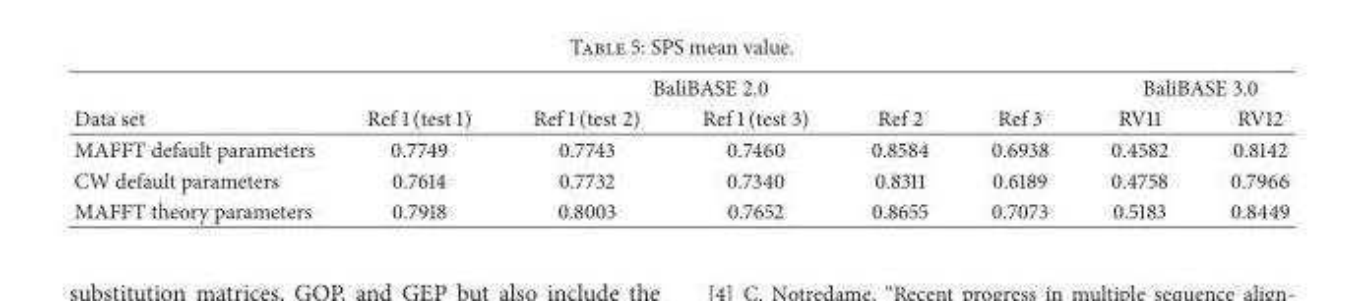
<table><thead><tr><td rowspan="2">Data set</td><td colspan="5">BaliBASE 2.0</td><td colspan="2">BaliBASE 3.0</td></tr><tr><td>Ref 1 (test 1)</td><td>Ref 1 (test 2)</td><td>Ref 1 (test 3)</td><td>Ref 2</td><td>Ref 3</td><td>RV11</td><td>RV12</td></tr></thead><tbody><tr><td>MAFFT default parameters</td><td>0.7749</td><td>0.7743</td><td>0.7460</td><td>0.8584</td><td>0.6938</td><td>0.4582</td><td>0.8142</td></tr><tr><td>CW default parameters</td><td>0.7614</td><td>0.7732</td><td>0.7340</td><td>0.8311</td><td>0.6189</td><td>0.4758</td><td>0.7966</td></tr><tr><td>MAFFT theory parameters</td><td>0.7918</td><td>0.8003</td><td>0.7652</td><td>0.8655</td><td>0.7073</td><td>0.5183</td><td>0.8449</td></tr></tbody></table>